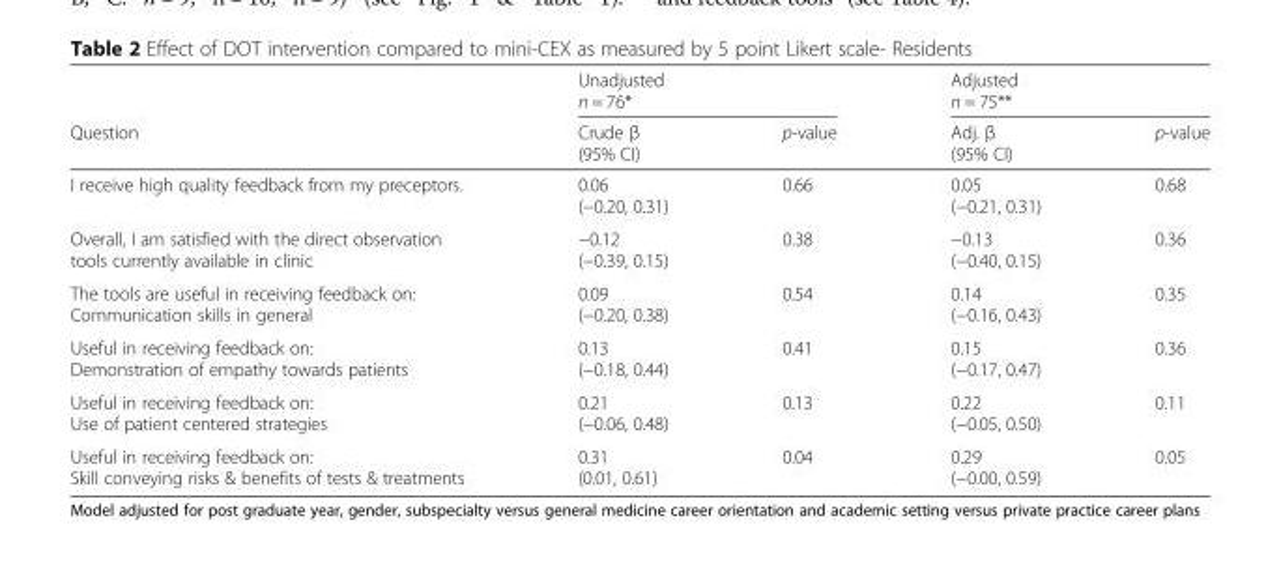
<table><thead><tr><td rowspan="2">Question</td><td colspan="2">Unadjusted n = 76*</td><td colspan="2">Adjusted n = 75**</td></tr><tr><td>Crude β (95% CI)</td><td>p-value</td><td>Adj. β (95% CI)</td><td>p-value</td></tr></thead><tbody><tr><td>I receive high quality feedback from my preceptors.</td><td>0.06 (−0.20, 0.31)</td><td>0.66</td><td>0.05 (−0.21, 0.31)</td><td>0.68</td></tr><tr><td>Overall, I am satisfied with the direct observation tools currently available in clinic</td><td>−0.12 (−0.39, 0.15)</td><td>0.38</td><td>−0.13 (−0.40, 0.15)</td><td>0.36</td></tr><tr><td>The tools are useful in receiving feedback on: Communication skills in general</td><td>0.09 (−0.20, 0.38)</td><td>0.54</td><td>0.14 (−0.16, 0.43)</td><td>0.35</td></tr><tr><td>Useful in receiving feedback on: Demonstration of empathy towards patients</td><td>0.13 (−0.18, 0.44)</td><td>0.41</td><td>0.15 (−0.17, 0.47)</td><td>0.36</td></tr><tr><td>Useful in receiving feedback on: Use of patient centered strategies</td><td>0.21 (−0.06, 0.48)</td><td>0.13</td><td>0.22 (−0.05, 0.50)</td><td>0.11</td></tr><tr><td>Useful in receiving feedback on: Skill conveying risks &amp; benefits of tests &amp; treatments</td><td>0.31 (0.01, 0.61)</td><td>0.04</td><td>0.29 (−0.00, 0.59)</td><td>0.05</td></tr></tbody></table>